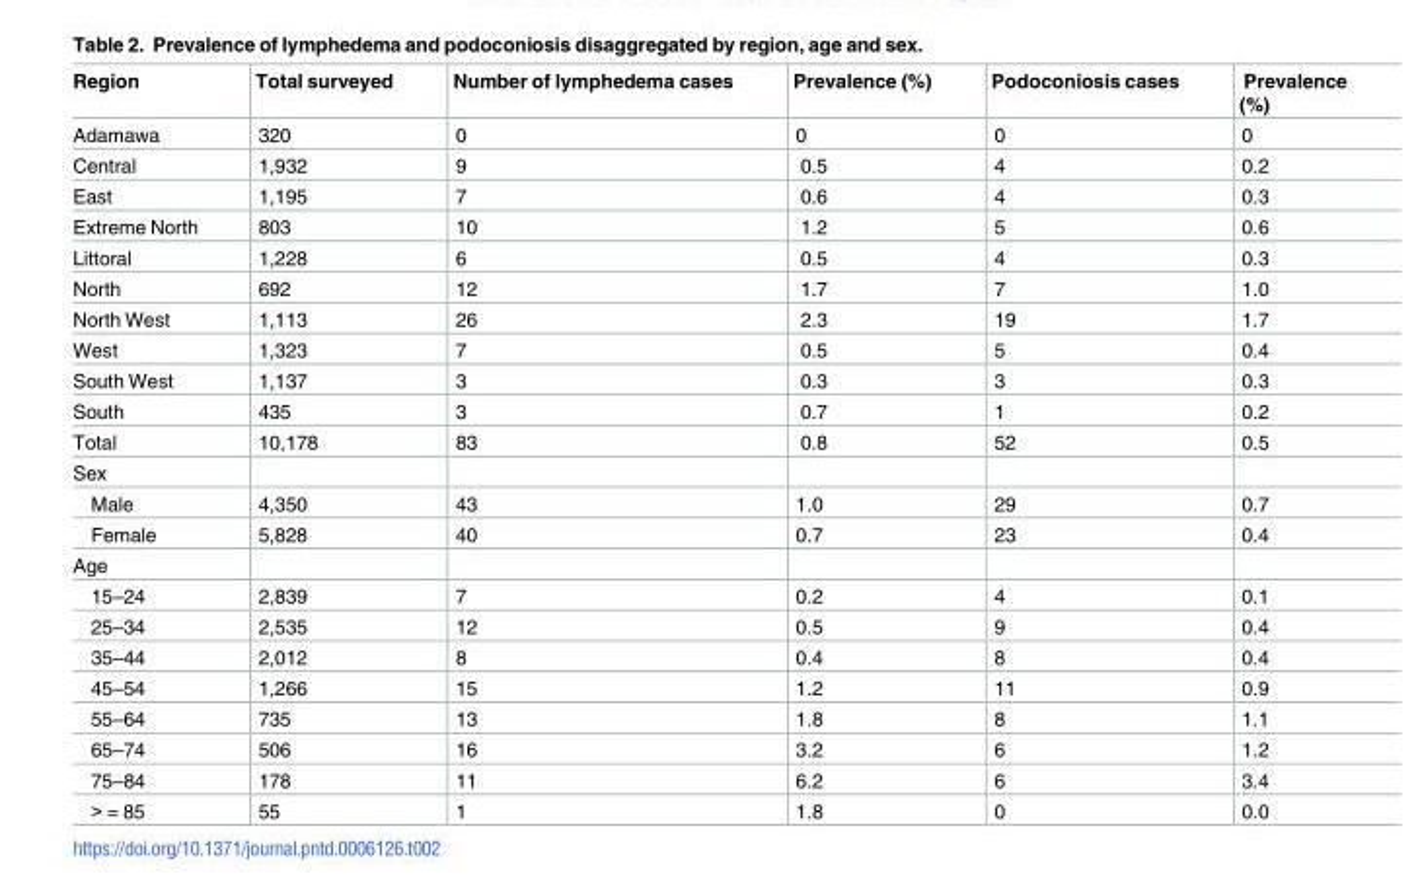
<table><thead><tr><td>Region</td><td>Total surveyed</td><td>Number of lymphedema cases</td><td>Prevalence (%)</td><td>Podoconiosis cases</td><td>Prevalence (%)</td></tr></thead><tbody><tr><td>Adamawa</td><td>320</td><td>0</td><td>0</td><td>0</td><td>0</td></tr><tr><td>Central</td><td>1,932</td><td>9</td><td>0.5</td><td>4</td><td>0.2</td></tr><tr><td>East</td><td>1,195</td><td>7</td><td>0.6</td><td>4</td><td>0.3</td></tr><tr><td>Extreme North</td><td>803</td><td>10</td><td>1.2</td><td>5</td><td>0.6</td></tr><tr><td>Littoral</td><td>1,228</td><td>6</td><td>0.5</td><td>4</td><td>0.3</td></tr><tr><td>North</td><td>692</td><td>12</td><td>1.7</td><td>7</td><td>1.0</td></tr><tr><td>North West</td><td>1,113</td><td>26</td><td>2.3</td><td>19</td><td>1.7</td></tr><tr><td>West</td><td>1,323</td><td>7</td><td>0.5</td><td>5</td><td>0.4</td></tr><tr><td>South West</td><td>1,137</td><td>3</td><td>0.3</td><td>3</td><td>0.3</td></tr><tr><td>South</td><td>435</td><td>3</td><td>0.7</td><td>1</td><td>0.2</td></tr><tr><td>Total</td><td>10,178</td><td>83</td><td>0.8</td><td>52</td><td>0.5</td></tr><tr><td colspan="6">Sex</td></tr><tr><td>Male</td><td>4,350</td><td>43</td><td>1.0</td><td>29</td><td>0.7</td></tr><tr><td>Female</td><td>5,828</td><td>40</td><td>0.7</td><td>23</td><td>0.4</td></tr><tr><td colspan="6">Age</td></tr><tr><td>15–24</td><td>2,839</td><td>7</td><td>0.2</td><td>4</td><td>0.1</td></tr><tr><td>25–34</td><td>2,535</td><td>12</td><td>0.5</td><td>9</td><td>0.4</td></tr><tr><td>35–44</td><td>2,012</td><td>8</td><td>0.4</td><td>8</td><td>0.4</td></tr><tr><td>45–54</td><td>1,266</td><td>15</td><td>1.2</td><td>11</td><td>0.9</td></tr><tr><td>55–64</td><td>735</td><td>13</td><td>1.8</td><td>8</td><td>1.1</td></tr><tr><td>65–74</td><td>506</td><td>16</td><td>3.2</td><td>6</td><td>1.2</td></tr><tr><td>75–84</td><td>178</td><td>11</td><td>6.2</td><td>6</td><td>3.4</td></tr><tr><td>&gt; = 85</td><td>55</td><td>1</td><td>1.8</td><td>0</td><td>0.0</td></tr></tbody></table>